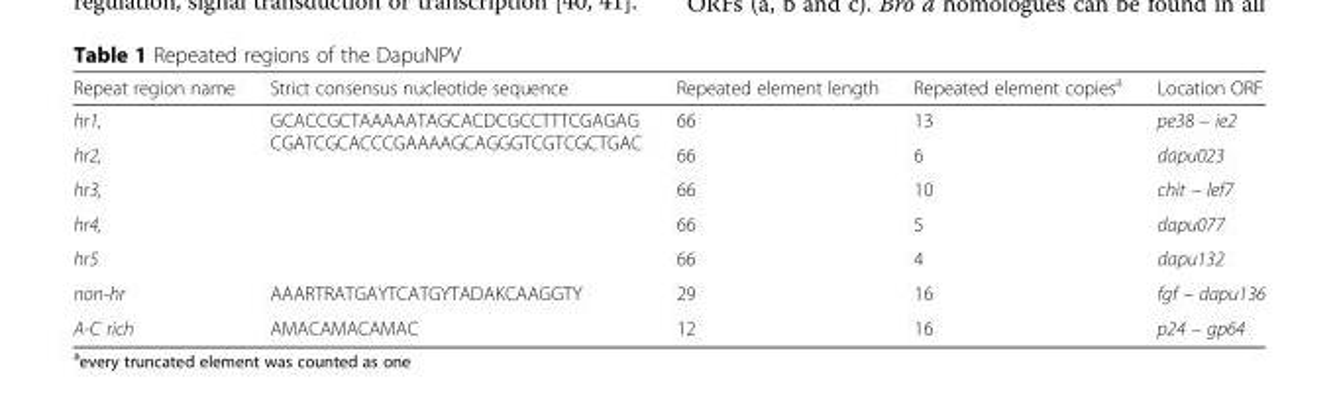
<table><thead><tr><td>Repeat region name</td><td>Strict consensus nucleotide sequence</td><td>Repeated element length</td><td>Repeated element copies<sup>a</sup></td><td>Location ORF</td></tr></thead><tbody><tr><td>hr1,</td><td rowspan="5">GCACCGCTAAAAATAGCACDCGCCTTTCGAGAG CGATCGCACCCGAAAAGCAGGGTCGTCGCTGAC</td><td>66</td><td>13</td><td>pe38 – ie2</td></tr><tr><td>hr2,</td><td>66</td><td>6</td><td>dapu023</td></tr><tr><td>hr3,</td><td>66</td><td>10</td><td>chit – lef7</td></tr><tr><td>hr4,</td><td>66</td><td>5</td><td>dapu077</td></tr><tr><td>hr5</td><td>66</td><td>4</td><td>dapu132</td></tr><tr><td>non-hr</td><td>AAARTRATGAYTCATGYTADAKCAAGGTY</td><td>29</td><td>16</td><td>fgf – dapu136</td></tr><tr><td>A-C rich</td><td>AMACAMACAMAC</td><td>12</td><td>16</td><td>p24 – gp64</td></tr></tbody></table>